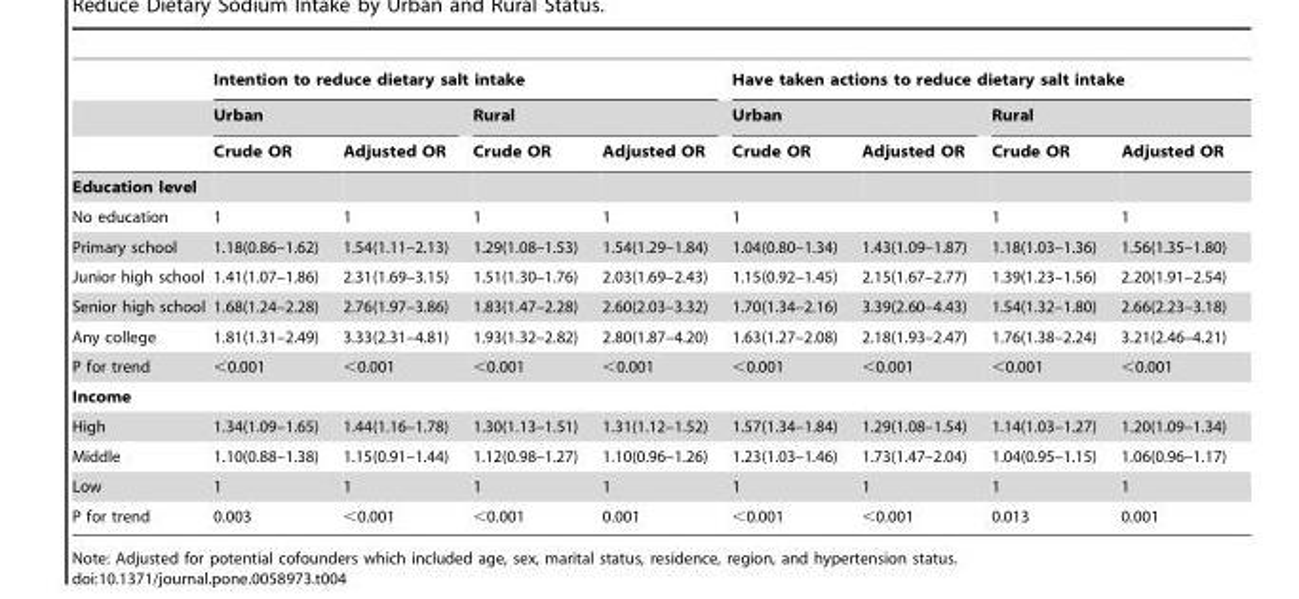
<table><thead><tr><td rowspan="3"></td><td colspan="4">Intention to reduce dietary salt intake</td><td colspan="4">Have taken actions to reduce dietary salt intake</td></tr><tr><td colspan="2">Urban</td><td colspan="2">Rural</td><td colspan="2">Urban</td><td colspan="2">Rural</td></tr><tr><td>Crude OR</td><td>Adjusted OR</td><td>Crude OR</td><td>Adjusted OR</td><td>Crude OR</td><td>Adjusted OR</td><td>Crude OR</td><td>Adjusted OR</td></tr></thead><tbody><tr><td colspan="9">Education level</td></tr><tr><td>No education</td><td>1</td><td>1</td><td>1</td><td>1</td><td>1</td><td></td><td>1</td><td>1</td></tr><tr><td>Primary school</td><td>1.18(0.86–1.62)</td><td>1.54(1.11–2.13)</td><td>1.29(1.08–1.53)</td><td>1.54(1.29–1.84)</td><td>1.04(0.80–1.34)</td><td>1.43(1.09–1.87)</td><td>1.18(1.03–1.36)</td><td>1.56(1.35–1.80)</td></tr><tr><td>Junior high school</td><td>1.41(1.07–1.86)</td><td>2.31(1.69–3.15)</td><td>1.51(1.30–1.76)</td><td>2.03(1.69–2.43)</td><td>1.15(0.92–1.45)</td><td>2.15(1.67–2.77)</td><td>1.39(1.23–1.56)</td><td>2.20(1.91–2.54)</td></tr><tr><td>Senior high school</td><td>1.68(1.24–2.28)</td><td>2.76(1.97–3.86)</td><td>1.83(1.47–2.28)</td><td>2.60(2.03–3.32)</td><td>1.70(1.34–2.16)</td><td>3.39(2.60–4.43)</td><td>1.54(1.32–1.80)</td><td>2.66(2.23–3.18)</td></tr><tr><td>Any college</td><td>1.81(1.31–2.49)</td><td>3.33(2.31–4.81)</td><td>1.93(1.32–2.82)</td><td>2.80(1.87–4.20)</td><td>1.63(1.27–2.08)</td><td>2.18(1.93–2.47)</td><td>1.76(1.38–2.24)</td><td>3.21(2.46–4.21)</td></tr><tr><td>P for trend</td><td>&lt;0.001</td><td>&lt;0.001</td><td>&lt;0.001</td><td>&lt;0.001</td><td>&lt;0.001</td><td>&lt;0.001</td><td>&lt;0.001</td><td>&lt;0.001</td></tr><tr><td colspan="9">Income</td></tr><tr><td>High</td><td>1.34(1.09–1.65)</td><td>1.44(1.16–1.78)</td><td>1.30(1.13–1.51)</td><td>1.31(1.12–1.52)</td><td>1.57(1.34–1.84)</td><td>1.29(1.08–1.54)</td><td>1.14(1.03–1.27)</td><td>1.20(1.09–1.34)</td></tr><tr><td>Middle</td><td>1.10(0.88–1.38)</td><td>1.15(0.91–1.44)</td><td>1.12(0.98–1.27)</td><td>1.10(0.96–1.26)</td><td>1.23(1.03–1.46)</td><td>1.73(1.47–2.04)</td><td>1.04(0.95–1.15)</td><td>1.06(0.96–1.17)</td></tr><tr><td>Low</td><td>1</td><td>1</td><td>1</td><td>1</td><td>1</td><td>1</td><td>1</td><td>1</td></tr><tr><td>P for trend</td><td>0.003</td><td>&lt;0.001</td><td>&lt;0.001</td><td>0.001</td><td>&lt;0.001</td><td>&lt;0.001</td><td>0.013</td><td>0.001</td></tr></tbody></table>